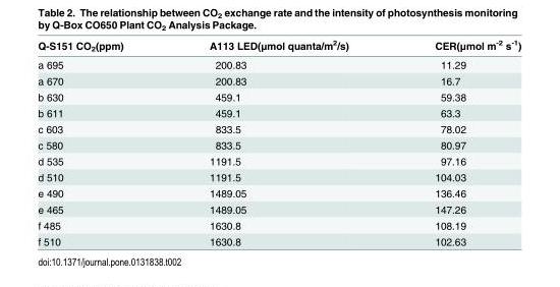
<table><thead><tr><td>Q-S151 CO<sub>2</sub>(ppm)</td><td>A113 LED(μmol quanta/m<sup>2</sup>/s)</td><td>CER(μmol m<sup>-2</sup> s<sup>-1</sup>)</td></tr></thead><tbody><tr><td>a 695</td><td>200.83</td><td>11.29</td></tr><tr><td>a 670</td><td>200.83</td><td>16.7</td></tr><tr><td>b 630</td><td>459.1</td><td>59.38</td></tr><tr><td>b 611</td><td>459.1</td><td>63.3</td></tr><tr><td>c 603</td><td>833.5</td><td>78.02</td></tr><tr><td>c 580</td><td>833.5</td><td>80.97</td></tr><tr><td>d 535</td><td>1191.5</td><td>97.16</td></tr><tr><td>d 510</td><td>1191.5</td><td>104.03</td></tr><tr><td>e 490</td><td>1489.05</td><td>136.46</td></tr><tr><td>e 465</td><td>1489.05</td><td>147.26</td></tr><tr><td>f 485</td><td>1630.8</td><td>108.19</td></tr><tr><td>f 510</td><td>1630.8</td><td>102.63</td></tr></tbody></table>